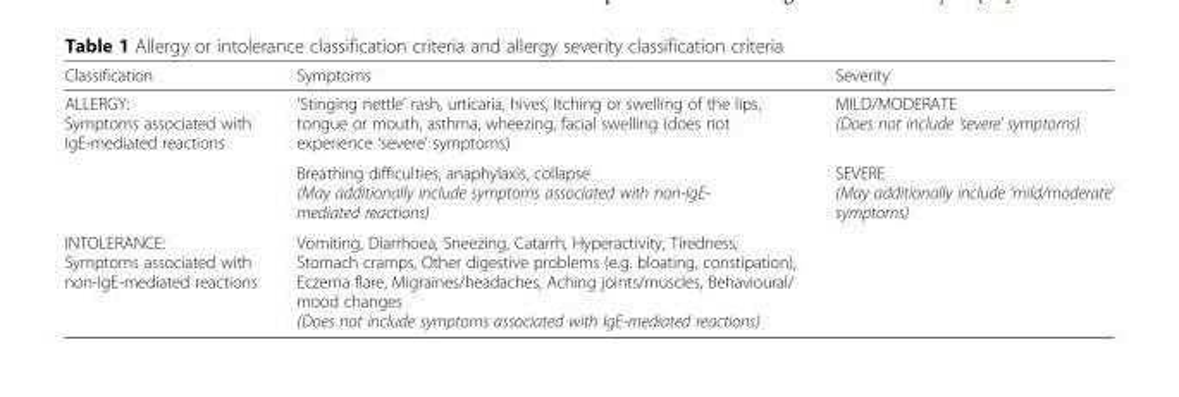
<table><thead><tr><td>Classification</td><td>Symptoms</td><td>Severity</td></tr></thead><tbody><tr><td rowspan="2">ALLERGY: Symptoms associated with IgE-mediated reactions</td><td>‘Stinging nettle’ rash, urticaria, hives, Itching or swelling of the lips, tongue or mouth, asthma, wheezing, facial swelling (does not experience ‘severe’ symptoms)</td><td>MILD/MODERATE (Does not include ‘severe’ symptoms)</td></tr><tr><td>Breathing difficulties, anaphylaxis, collapse (May additionally include symptoms associated with non-IgE- mediated reactions)</td><td>SEVERE (May additionally include ‘mild/moderate’ symptoms)</td></tr><tr><td>INTOLERANCE: Symptoms associated with non-IgE-mediated reactions</td><td>Vomiting, Diarrhoea, Sneezing, Catarrh, Hyperactivity, Tiredness, Stomach cramps, Other digestive problems (e.g. bloating, constipation), Eczema flare, Migraines/headaches, Aching joints/muscles, Behavioural/ mood changes (Does not include symptoms associated with IgE-mediated reactions)</td><td></td></tr></tbody></table>